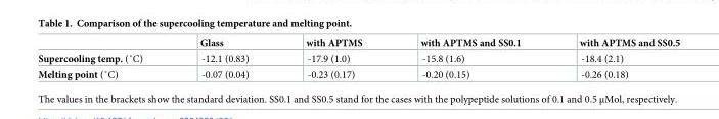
<table><thead><tr><td></td><td>Glass</td><td>with APTMS</td><td>with APTMS and SS0.1</td><td>with APTMS and SS0.5</td></tr></thead><tbody><tr><td>Supercooling temp. (˚C)</td><td>-12.1 (0.83)</td><td>-17.9 (1.0)</td><td>-15.8 (1.6)</td><td>-18.4 (2.1)</td></tr><tr><td>Melting point (˚C)</td><td>-0.07 (0.04)</td><td>-0.23 (0.17)</td><td>-0.20 (0.15)</td><td>-0.26 (0.18)</td></tr></tbody></table>